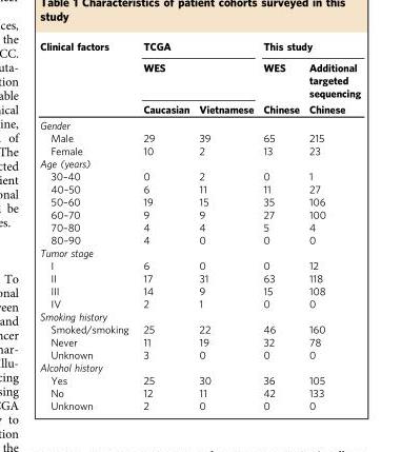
<table><thead><tr><td rowspan="3">Clinical factors</td><td rowspan="2" colspan="2">TCGA WES</td><td colspan="2">This study</td></tr><tr><td rowspan="2">WES Chinese</td><td rowspan="2">Additional targeted sequencing Chinese</td></tr><tr><td>Caucasian</td><td>Vietnamese</td></tr></thead><tbody><tr><td colspan="5">Gender</td></tr><tr><td>Male</td><td>29</td><td>39</td><td>65</td><td>215</td></tr><tr><td>Female</td><td>10</td><td>2</td><td>13</td><td>23</td></tr><tr><td colspan="5">Age (years)</td></tr><tr><td>30–40</td><td>0</td><td>2</td><td>0</td><td>1</td></tr><tr><td>40–50</td><td>6</td><td>11</td><td>11</td><td>27</td></tr><tr><td>50–60</td><td>19</td><td>15</td><td>35</td><td>106</td></tr><tr><td>60–70</td><td>9</td><td>9</td><td>27</td><td>100</td></tr><tr><td>70–80</td><td>4</td><td>4</td><td>5</td><td>4</td></tr><tr><td>80–90</td><td>4</td><td>0</td><td>0</td><td>0</td></tr><tr><td colspan="5">Tumor stage</td></tr><tr><td>I</td><td>6</td><td>0</td><td>0</td><td>12</td></tr><tr><td>II</td><td>17</td><td>31</td><td>63</td><td>118</td></tr><tr><td>III</td><td>14</td><td>9</td><td>15</td><td>108</td></tr><tr><td>IV</td><td>2</td><td>1</td><td>0</td><td>0</td></tr><tr><td colspan="5">Smoking history</td></tr><tr><td>Smoked/smoking</td><td>25</td><td>22</td><td>46</td><td>160</td></tr><tr><td>Never</td><td>11</td><td>19</td><td>32</td><td>78</td></tr><tr><td>Unknown</td><td>3</td><td>0</td><td>0</td><td>0</td></tr><tr><td colspan="5">Alcohol history</td></tr><tr><td>Yes</td><td>25</td><td>30</td><td>36</td><td>105</td></tr><tr><td>No</td><td>12</td><td>11</td><td>42</td><td>133</td></tr><tr><td>Unknown</td><td>2</td><td>0</td><td>0</td><td>0</td></tr></tbody></table>